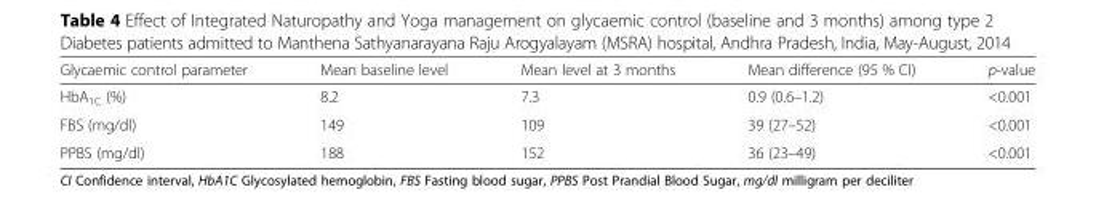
<table><thead><tr><td>Glycaemic control parameter</td><td>Mean baseline level</td><td>Mean level at 3 months</td><td>Mean difference (95 % CI)</td><td>p-value</td></tr></thead><tbody><tr><td>HbA<sub>1C</sub> (%)</td><td>8.2</td><td>7.3</td><td>0.9 (0.6–1.2)</td><td>&lt;0.001</td></tr><tr><td>FBS (mg/dl)</td><td>149</td><td>109</td><td>39 (27–52)</td><td>&lt;0.001</td></tr><tr><td>PPBS (mg/dl)</td><td>188</td><td>152</td><td>36 (23–49)</td><td>&lt;0.001</td></tr></tbody></table>